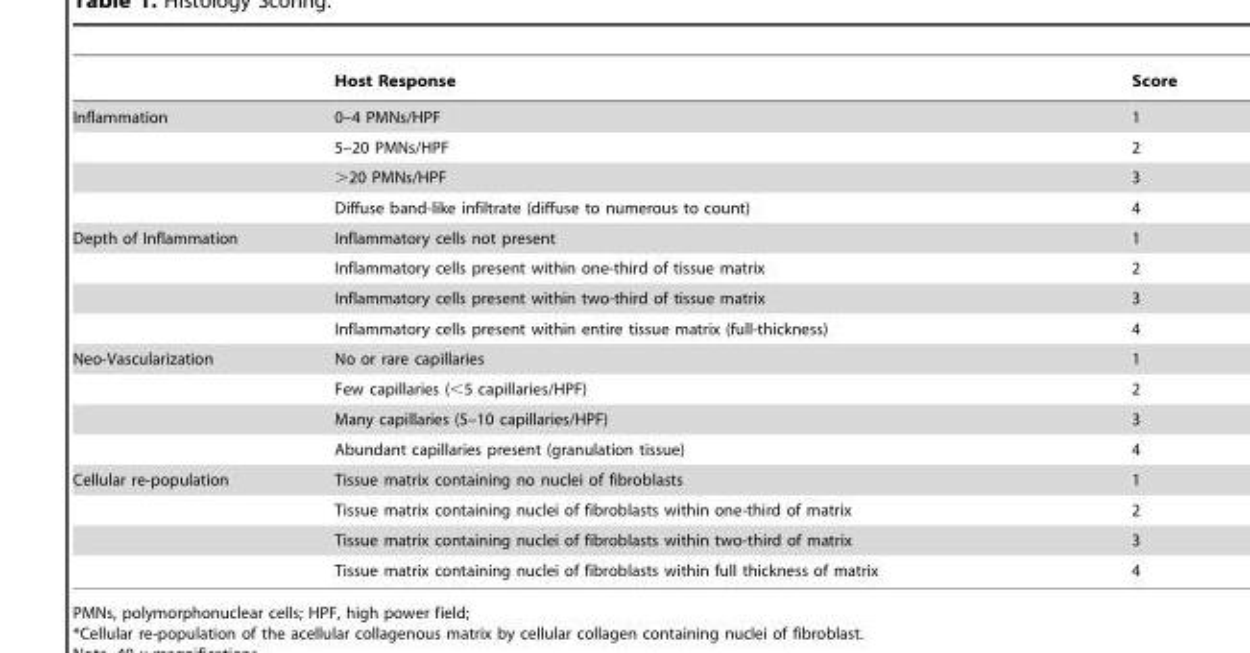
<table><thead><tr><td></td><td>Host Response</td><td>Score</td></tr></thead><tbody><tr><td rowspan="4">Inflammation</td><td>0–4 PMNs/HPF</td><td>1</td></tr><tr><td>5–20 PMNs/HPF</td><td>2</td></tr><tr><td>&gt;20 PMNs/HPF</td><td>3</td></tr><tr><td>Diffuse band-like infiltrate (diffuse to numerous to count)</td><td>4</td></tr><tr><td rowspan="4">Depth of Inflammation</td><td>Inflammatory cells not present</td><td>1</td></tr><tr><td>Inflammatory cells present within one-third of tissue matrix</td><td>2</td></tr><tr><td>Inflammatory cells present within two-third of tissue matrix</td><td>3</td></tr><tr><td>Inflammatory cells present within entire tissue matrix (full-thickness)</td><td>4</td></tr><tr><td rowspan="4">Neo-Vascularization</td><td>No or rare capillaries</td><td>1</td></tr><tr><td>Few capillaries (&lt;5 capillaries/HPF)</td><td>2</td></tr><tr><td>Many capillaries (5–10 capillaries/HPF)</td><td>3</td></tr><tr><td>Abundant capillaries present (granulation tissue)</td><td>4</td></tr><tr><td rowspan="4">Cellular re-population</td><td>Tissue matrix containing no nuclei of fibroblasts</td><td>1</td></tr><tr><td>Tissue matrix containing nuclei of fibroblasts within one-third of matrix</td><td>2</td></tr><tr><td>Tissue matrix containing nuclei of fibroblasts within two-third of matrix</td><td>3</td></tr><tr><td>Tissue matrix containing nuclei of fibroblasts within full thickness of matrix</td><td>4</td></tr></tbody></table>